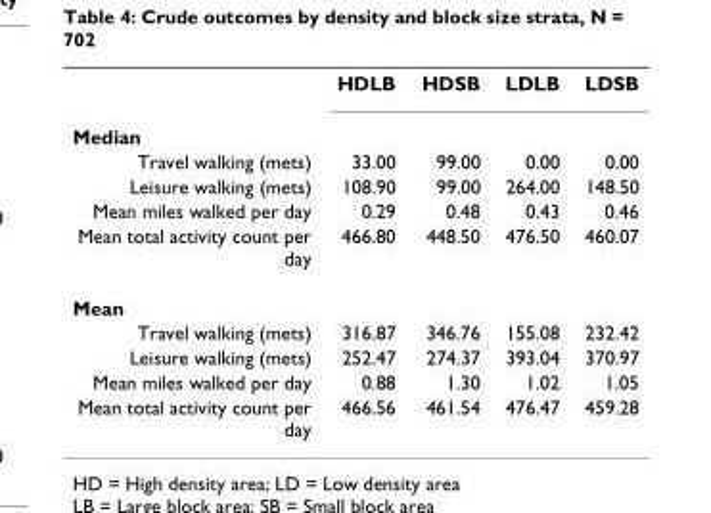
<table><thead><tr><td></td><td>HDLB</td><td>HDSB</td><td>LDLB</td><td>LDSB</td></tr></thead><tbody><tr><td colspan="5">Median</td></tr><tr><td>Travel walking (mets)</td><td>33.00</td><td>99.00</td><td>0.00</td><td>0.00</td></tr><tr><td>Leisure walking (mets)</td><td>108.90</td><td>99.00</td><td>264.00</td><td>148.50</td></tr><tr><td>Mean miles walked per day</td><td>0.29</td><td>0.48</td><td>0.43</td><td>0.46</td></tr><tr><td>Mean total activity count per day</td><td>466.80</td><td>448.50</td><td>476.50</td><td>460.07</td></tr><tr><td colspan="5">Mean</td></tr><tr><td>Travel walking (mets)</td><td>316.87</td><td>346.76</td><td>155.08</td><td>232.42</td></tr><tr><td>Leisure walking (mets)</td><td>252.47</td><td>274.37</td><td>393.04</td><td>370.97</td></tr><tr><td>Mean miles walked per day</td><td>0.88</td><td>1.30</td><td>1.02</td><td>1.05</td></tr><tr><td>Mean total activity count per day</td><td>466.56</td><td>461.54</td><td>476.47</td><td>459.28</td></tr></tbody></table>